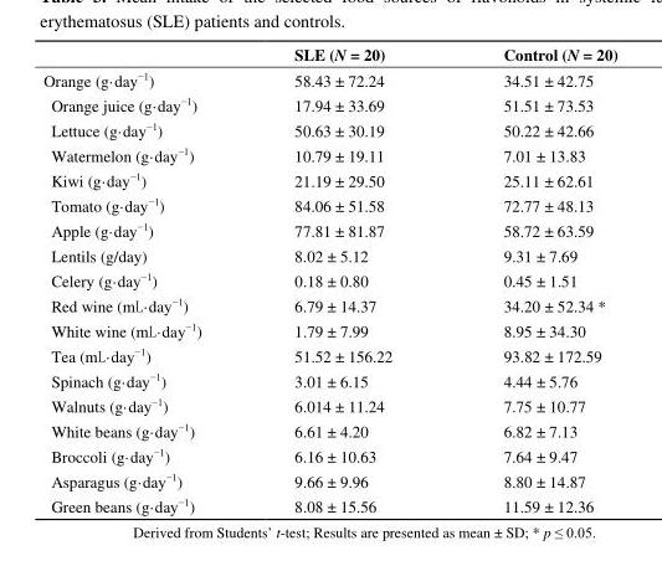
<table><thead><tr><td></td><td>SLE (N = 20)</td><td>Control (N = 20)</td></tr></thead><tbody><tr><td>Orange (g·day<sup>−1</sup>)</td><td>58.43 ± 72.24</td><td>34.51 ± 42.75</td></tr><tr><td>Orange juice (g·day<sup>−1</sup>)</td><td>17.94 ± 33.69</td><td>51.51 ± 73.53</td></tr><tr><td>Lettuce (g·day<sup>−1</sup>)</td><td>50.63 ± 30.19</td><td>50.22 ± 42.66</td></tr><tr><td>Watermelon (g·day<sup>−1</sup>)</td><td>10.79 ± 19.11</td><td>7.01 ± 13.83</td></tr><tr><td>Kiwi (g·day<sup>−1</sup>)</td><td>21.19 ± 29.50</td><td>25.11 ± 62.61</td></tr><tr><td>Tomato (g·day<sup>−1</sup>)</td><td>84.06 ± 51.58</td><td>72.77 ± 48.13</td></tr><tr><td>Apple (g·day<sup>−1</sup>)</td><td>77.81 ± 81.87</td><td>58.72 ± 63.59</td></tr><tr><td>Lentils (g/day)</td><td>8.02 ± 5.12</td><td>9.31 ± 7.69</td></tr><tr><td>Celery (g·day<sup>−1</sup>)</td><td>0.18 ± 0.80</td><td>0.45 ± 1.51</td></tr><tr><td>Red wine (mL·day<sup>−1</sup>)</td><td>6.79 ± 14.37</td><td>34.20 ± 52.34 *</td></tr><tr><td>White wine (mL·day<sup>−1</sup>)</td><td>1.79 ± 7.99</td><td>8.95 ± 34.30</td></tr><tr><td>Tea (mL·day<sup>−1</sup>)</td><td>51.52 ± 156.22</td><td>93.82 ± 172.59</td></tr><tr><td>Spinach (g·day<sup>−1</sup>)</td><td>3.01 ± 6.15</td><td>4.44 ± 5.76</td></tr><tr><td>Walnuts (g·day<sup>−1</sup>)</td><td>6.014 ± 11.24</td><td>7.75 ± 10.77</td></tr><tr><td>White beans (g·day<sup>−1</sup>)</td><td>6.61 ± 4.20</td><td>6.82 ± 7.13</td></tr><tr><td>Broccoli (g·day<sup>−1</sup>)</td><td>6.16 ± 10.63</td><td>7.64 ± 9.47</td></tr><tr><td>Asparagus (g·day<sup>−1</sup>)</td><td>9.66 ± 9.96</td><td>8.80 ± 14.87</td></tr><tr><td>Green beans (g·day<sup>−1</sup>)</td><td>8.08 ± 15.56</td><td>11.59 ± 12.36</td></tr></tbody></table>